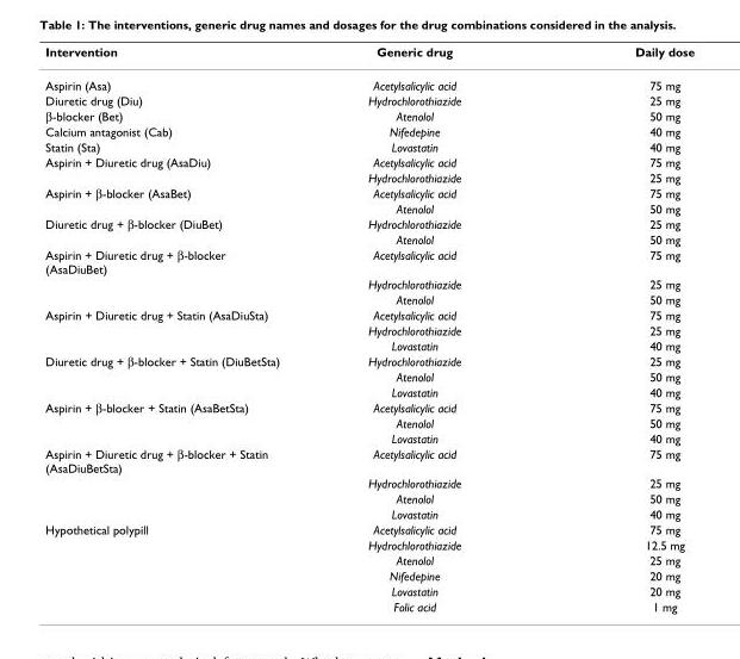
<table><thead><tr><td>Intervention</td><td>Generic drug</td><td>Daily dose</td></tr></thead><tbody><tr><td>Aspirin (Asa)</td><td>Acetylsalicylic acid</td><td>75 mg</td></tr><tr><td>Diuretic drug (Diu)</td><td>Hydrochlorothiazide</td><td>25 mg</td></tr><tr><td>β-blocker (Bet)</td><td>Atenolol</td><td>50 mg</td></tr><tr><td>Calcium antagonist (Cab)</td><td>Nifedepine</td><td>40 mg</td></tr><tr><td>Statin (Sta)</td><td>Lovastatin</td><td>40 mg</td></tr><tr><td rowspan="2">Aspirin + Diuretic drug (AsaDiu)</td><td>Acetylsalicylic acid</td><td>75 mg</td></tr><tr><td>Hydrochlorothiazide</td><td>25 mg</td></tr><tr><td rowspan="2">Aspirin + β-blocker (AsaBet)</td><td>Acetylsalicylic acid</td><td>75 mg</td></tr><tr><td>Atenolol</td><td>50 mg</td></tr><tr><td rowspan="2">Diuretic drug + β-blocker (DiuBet)</td><td>Hydrochlorothiazide</td><td>25 mg</td></tr><tr><td>Atenolol</td><td>50 mg</td></tr><tr><td rowspan="3">Aspirin + Diuretic drug + β-blocker (AsaDiuBet)</td><td>Acetylsalicylic acid</td><td>75 mg</td></tr><tr><td>Hydrochlorothiazide</td><td>25 mg</td></tr><tr><td>Atenolol</td><td>50 mg</td></tr><tr><td rowspan="3">Aspirin + Diuretic drug + Statin (AsaDiuSta)</td><td>Acetylsalicylic acid</td><td>75 mg</td></tr><tr><td>Hydrochlorothiazide</td><td>25 mg</td></tr><tr><td>Lovastatin</td><td>40 mg</td></tr><tr><td rowspan="3">Diuretic drug + β-blocker + Statin (DiuBetSta)</td><td>Hydrochlorothiazide</td><td>25 mg</td></tr><tr><td>Atenolol</td><td>50 mg</td></tr><tr><td>Lovastatin</td><td>40 mg</td></tr><tr><td rowspan="3">Aspirin + β-blocker + Statin (AsaBetSta)</td><td>Acetylsalicylic acid</td><td>75 mg</td></tr><tr><td>Atenolol</td><td>50 mg</td></tr><tr><td>Lovastatin</td><td>40 mg</td></tr><tr><td rowspan="4">Aspirin + Diuretic drug + β-blocker + Statin (AsaDiuBetSta)</td><td>Acetylsalicylic acid</td><td>75 mg</td></tr><tr><td>Hydrochlorothiazide</td><td>25 mg</td></tr><tr><td>Atenolol</td><td>50 mg</td></tr><tr><td>Lovastatin</td><td>40 mg</td></tr><tr><td rowspan="6">Hypothetical polypill</td><td>Acetylsalicylic acid</td><td>75 mg</td></tr><tr><td>Hydrochlorothiazide</td><td>12.5 mg</td></tr><tr><td>Atenolol</td><td>25 mg</td></tr><tr><td>Nifedepine</td><td>20 mg</td></tr><tr><td>Lovastatin</td><td>20 mg</td></tr><tr><td>Folic acid</td><td>1 mg</td></tr></tbody></table>